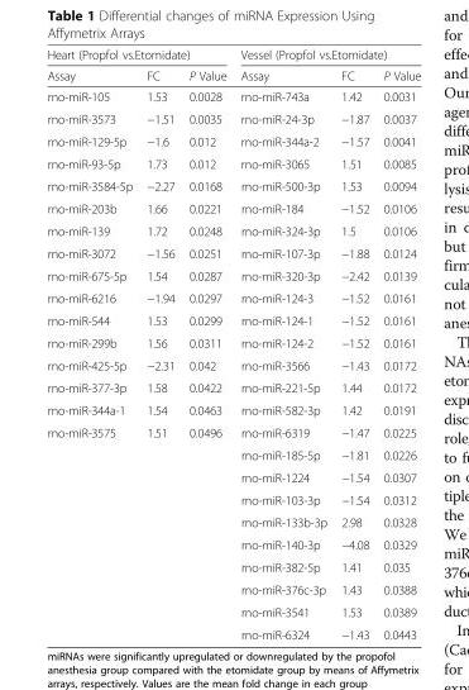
<table><thead><tr><td colspan="3">Heart (Propfol vs.Etomidate)</td><td colspan="3">Vessel (Propfol vs.Etomidate)</td></tr><tr><td>Assay</td><td>FC</td><td>P Value</td><td>Assay</td><td>FC</td><td>P Value</td></tr></thead><tbody><tr><td>rno-miR-105</td><td>1.53</td><td>0.0028</td><td>rno-miR-743a</td><td>1.42</td><td>0.0031</td></tr><tr><td>rno-miR-3573</td><td>−1.51</td><td>0.0035</td><td>rno-miR-24-3p</td><td>−1.87</td><td>0.0037</td></tr><tr><td>rno-miR-129-5p</td><td>−1.6</td><td>0.012</td><td>rno-miR-344a-2</td><td>−1.57</td><td>0.0041</td></tr><tr><td>rno-miR-93-5p</td><td>1.73</td><td>0.012</td><td>rno-miR-3065</td><td>1.51</td><td>0.0085</td></tr><tr><td>rno-miR-3584-5p</td><td>−2.27</td><td>0.0168</td><td>rno-miR-500-3p</td><td>1.53</td><td>0.0094</td></tr><tr><td>rno-miR-203b</td><td>1.66</td><td>0.0221</td><td>rno-miR-184</td><td>−1.52</td><td>0.0106</td></tr><tr><td>rno-miR-139</td><td>1.72</td><td>0.0248</td><td>rno-miR-324-3p</td><td>1.5</td><td>0.0106</td></tr><tr><td>rno-miR-3072</td><td>−1.56</td><td>0.0251</td><td>rno-miR-107-3p</td><td>−1.88</td><td>0.0124</td></tr><tr><td>rno-miR-675-5p</td><td>1.54</td><td>0.0287</td><td>rno-miR-320-3p</td><td>−2.42</td><td>0.0139</td></tr><tr><td>rno-miR-6216</td><td>−1.94</td><td>0.0297</td><td>rno-miR-124-3</td><td>−1.52</td><td>0.0161</td></tr><tr><td>rno-miR-544</td><td>1.53</td><td>0.0299</td><td>rno-miR-124-1</td><td>−1.52</td><td>0.0161</td></tr><tr><td>rno-miR-299b</td><td>1.56</td><td>0.0311</td><td>rno-miR-124-2</td><td>−1.52</td><td>0.0161</td></tr><tr><td>rno-miR-425-5p</td><td>−2.31</td><td>0.042</td><td>rno-miR-3566</td><td>−1.43</td><td>0.0172</td></tr><tr><td>rno-miR-377-3p</td><td>1.58</td><td>0.0422</td><td>rno-miR-221-5p</td><td>1.44</td><td>0.0172</td></tr><tr><td>rno-miR-344a-1</td><td>1.54</td><td>0.0463</td><td>rno-miR-582-3p</td><td>1.42</td><td>0.0191</td></tr><tr><td rowspan="10">rno-miR-3575</td><td>1.51</td><td>0.0496</td><td>rno-miR-6319</td><td>−1.47</td><td>0.0225</td></tr><tr><td></td><td></td><td>rno-miR-185-5p</td><td>−1.81</td><td>0.0226</td></tr><tr><td></td><td></td><td>rno-miR-1224</td><td>−1.54</td><td>0.0307</td></tr><tr><td></td><td></td><td>rno-miR-103-3p</td><td>−1.54</td><td>0.0312</td></tr><tr><td></td><td></td><td>rno-miR-133b-3p</td><td>2.98</td><td>0.0328</td></tr><tr><td></td><td></td><td>rno-miR-140-3p</td><td>−4.08</td><td>0.0329</td></tr><tr><td></td><td></td><td>rno-miR-382-5p</td><td>1.41</td><td>0.035</td></tr><tr><td></td><td></td><td>rno-miR-376c-3p</td><td>1.43</td><td>0.0388</td></tr><tr><td></td><td></td><td>rno-miR-3541</td><td>1.53</td><td>0.0389</td></tr><tr><td></td><td></td><td>rno-miR-6324</td><td>−1.43</td><td>0.0443</td></tr></tbody></table>